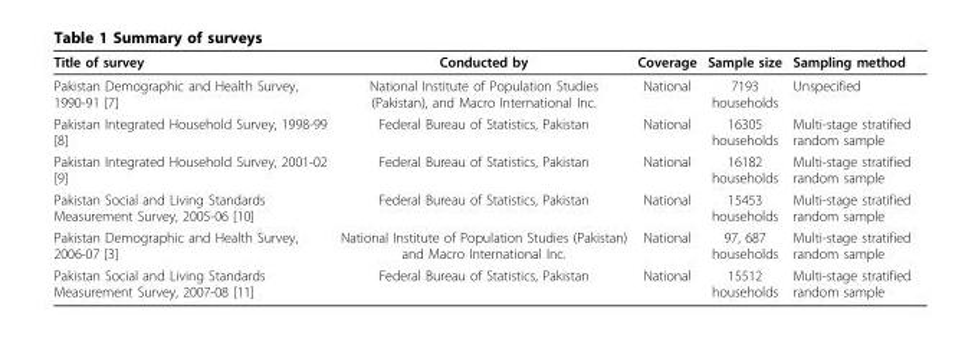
<table><thead><tr><td>Title of survey</td><td>Conducted by</td><td>Coverage</td><td>Sample size</td><td>Sampling method</td></tr></thead><tbody><tr><td>Pakistan Demographic and Health Survey, 1990-91 [7]</td><td>National Institute of Population Studies (Pakistan), and Macro International Inc.</td><td>National</td><td>7193 households</td><td>Unspecified</td></tr><tr><td>Pakistan Integrated Household Survey, 1998-99 [8]</td><td>Federal Bureau of Statistics, Pakistan</td><td>National</td><td>16305 households</td><td>Multi-stage stratified random sample</td></tr><tr><td>Pakistan Integrated Household Survey, 2001-02 [9]</td><td>Federal Bureau of Statistics, Pakistan</td><td>National</td><td>16182 households</td><td>Multi-stage stratified random sample</td></tr><tr><td>Pakistan Social and Living Standards Measurement Survey, 2005-06 [10]</td><td>Federal Bureau of Statistics, Pakistan</td><td>National</td><td>15453 households</td><td>Multi-stage stratified random sample</td></tr><tr><td>Pakistan Demographic and Health Survey, 2006-07 [3]</td><td>National Institute of Population Studies (Pakistan) and Macro International Inc.</td><td>National</td><td>97, 687 households</td><td>Multi-stage stratified random sample</td></tr><tr><td>Pakistan Social and Living Standards Measurement Survey, 2007-08 [11]</td><td>Federal Bureau of Statistics, Pakistan</td><td>National</td><td>15512 households</td><td>Multi-stage stratified random sample</td></tr></tbody></table>